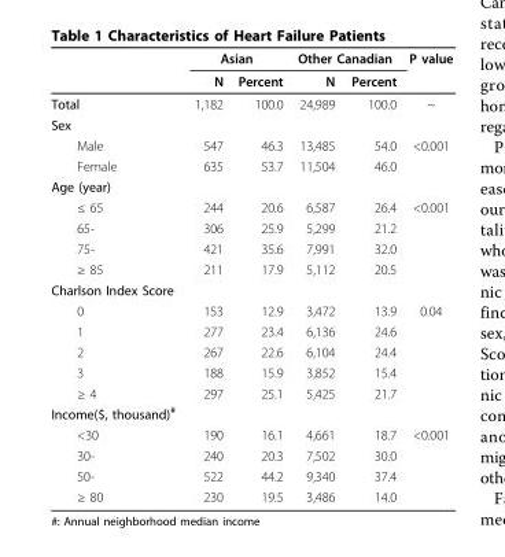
<table><thead><tr><td rowspan="2"></td><td colspan="2">Asian</td><td colspan="2">Other Canadian</td><td rowspan="2">P value</td></tr><tr><td>N</td><td>Percent</td><td>N</td><td>Percent</td></tr></thead><tbody><tr><td>Total</td><td>1,182</td><td>100.0</td><td>24,989</td><td>100.0</td><td>~</td></tr><tr><td colspan="6">Sex</td></tr><tr><td>Male</td><td>547</td><td>46.3</td><td>13,485</td><td>54.0</td><td>&lt;0.001</td></tr><tr><td>Female</td><td>635</td><td>53.7</td><td>11,504</td><td>46.0</td><td></td></tr><tr><td colspan="6">Age (year)</td></tr><tr><td>≤ 65</td><td>244</td><td>20.6</td><td>6,587</td><td>26.4</td><td>&lt;0.001</td></tr><tr><td>65-</td><td>306</td><td>25.9</td><td>5,299</td><td>21.2</td><td></td></tr><tr><td>75-</td><td>421</td><td>35.6</td><td>7,991</td><td>32.0</td><td></td></tr><tr><td>≥ 85</td><td>211</td><td>17.9</td><td>5,112</td><td>20.5</td><td></td></tr><tr><td colspan="6">Charlson Index Score</td></tr><tr><td>0</td><td>153</td><td>12.9</td><td>3,472</td><td>13.9</td><td>0.04</td></tr><tr><td>1</td><td>277</td><td>23.4</td><td>6,136</td><td>24.6</td><td></td></tr><tr><td>2</td><td>267</td><td>22.6</td><td>6,104</td><td>24.4</td><td></td></tr><tr><td>3</td><td>188</td><td>15.9</td><td>3,852</td><td>15.4</td><td></td></tr><tr><td>≥ 4</td><td>297</td><td>25.1</td><td>5,425</td><td>21.7</td><td></td></tr><tr><td colspan="6">Income($, thousand)<sup>#</sup></td></tr><tr><td>&lt;30</td><td>190</td><td>16.1</td><td>4,661</td><td>18.7</td><td>&lt;0.001</td></tr><tr><td>30-</td><td>240</td><td>20.3</td><td>7,502</td><td>30.0</td><td></td></tr><tr><td>50-</td><td>522</td><td>44.2</td><td>9,340</td><td>37.4</td><td></td></tr><tr><td>≥ 80</td><td>230</td><td>19.5</td><td>3,486</td><td>14.0</td><td></td></tr></tbody></table>